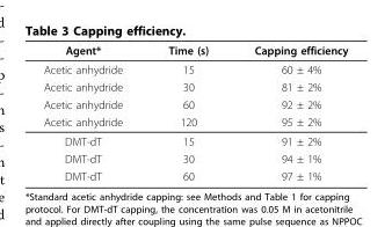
<table><thead><tr><td>Agent*</td><td>Time (s)</td><td>Capping efficiency</td></tr></thead><tbody><tr><td>Acetic anhydride</td><td>15</td><td>60 ± 4%</td></tr><tr><td>Acetic anhydride</td><td>30</td><td>81 ± 2%</td></tr><tr><td>Acetic anhydride</td><td>60</td><td>92 ± 2%</td></tr><tr><td>Acetic anhydride</td><td>120</td><td>95 ± 2%</td></tr><tr><td>DMT-dT</td><td>15</td><td>91 ± 2%</td></tr><tr><td>DMT-dT</td><td>30</td><td>94 ± 1%</td></tr><tr><td>DMT-dT</td><td>60</td><td>97 ± 1%</td></tr></tbody></table>